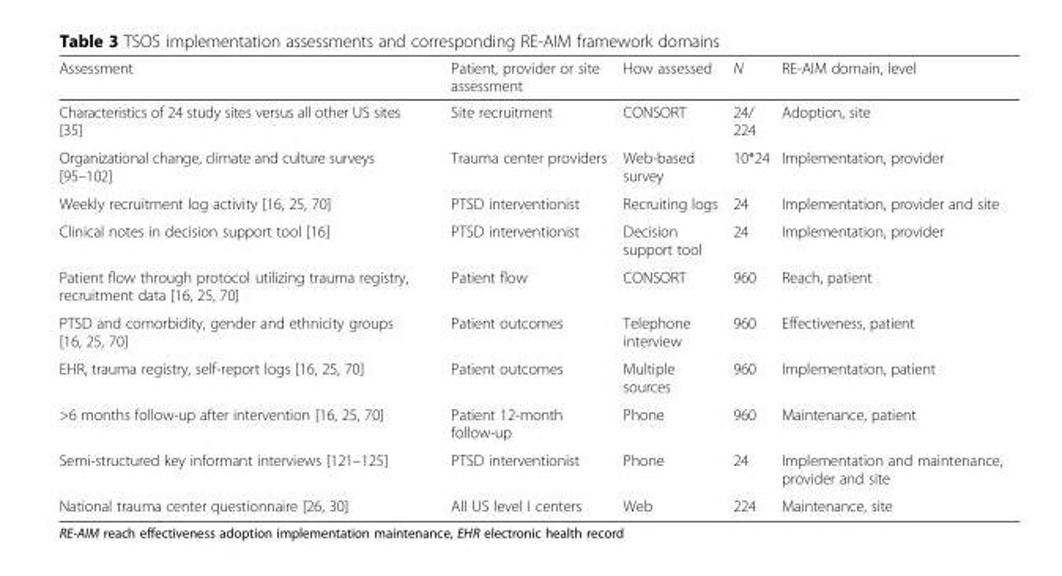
<table><thead><tr><td>Assessment</td><td>Patient, provider or site assessment</td><td>How assessed</td><td>N</td><td>RE-AIM domain, level</td></tr></thead><tbody><tr><td>Characteristics of 24 study sites versus all other US sites [35]</td><td>Site recruitment</td><td>CONSORT</td><td>24/ 224</td><td>Adoption, site</td></tr><tr><td>Organizational change, climate and culture surveys [95–102]</td><td>Trauma center providers</td><td>Web-based survey</td><td>10*24</td><td>Implementation, provider</td></tr><tr><td>Weekly recruitment log activity [16, 25, 70]</td><td>PTSD interventionist</td><td>Recruiting logs</td><td>24</td><td>Implementation, provider and site</td></tr><tr><td>Clinical notes in decision support tool [16]</td><td>PTSD interventionist</td><td>Decision support tool</td><td>24</td><td>Implementation, provider</td></tr><tr><td>Patient flow through protocol utilizing trauma registry, recruitment data [16, 25, 70]</td><td>Patient flow</td><td>CONSORT</td><td>960</td><td>Reach, patient</td></tr><tr><td>PTSD and comorbidity, gender and ethnicity groups [16, 25, 70]</td><td>Patient outcomes</td><td>Telephone interview</td><td>960</td><td>Effectiveness, patient</td></tr><tr><td>EHR, trauma registry, self-report logs [16, 25, 70]</td><td>Patient outcomes</td><td>Multiple sources</td><td>960</td><td>Implementation, patient</td></tr><tr><td>&gt;6 months follow-up after intervention [16, 25, 70]</td><td>Patient 12-month follow-up</td><td>Phone</td><td>960</td><td>Maintenance, patient</td></tr><tr><td>Semi-structured key informant interviews [121–125]</td><td>PTSD interventionist</td><td>Phone</td><td>24</td><td>Implementation and maintenance, provider and site</td></tr><tr><td>National trauma center questionnaire [26, 30]</td><td>All US level I centers</td><td>Web</td><td>224</td><td>Maintenance, site</td></tr></tbody></table>